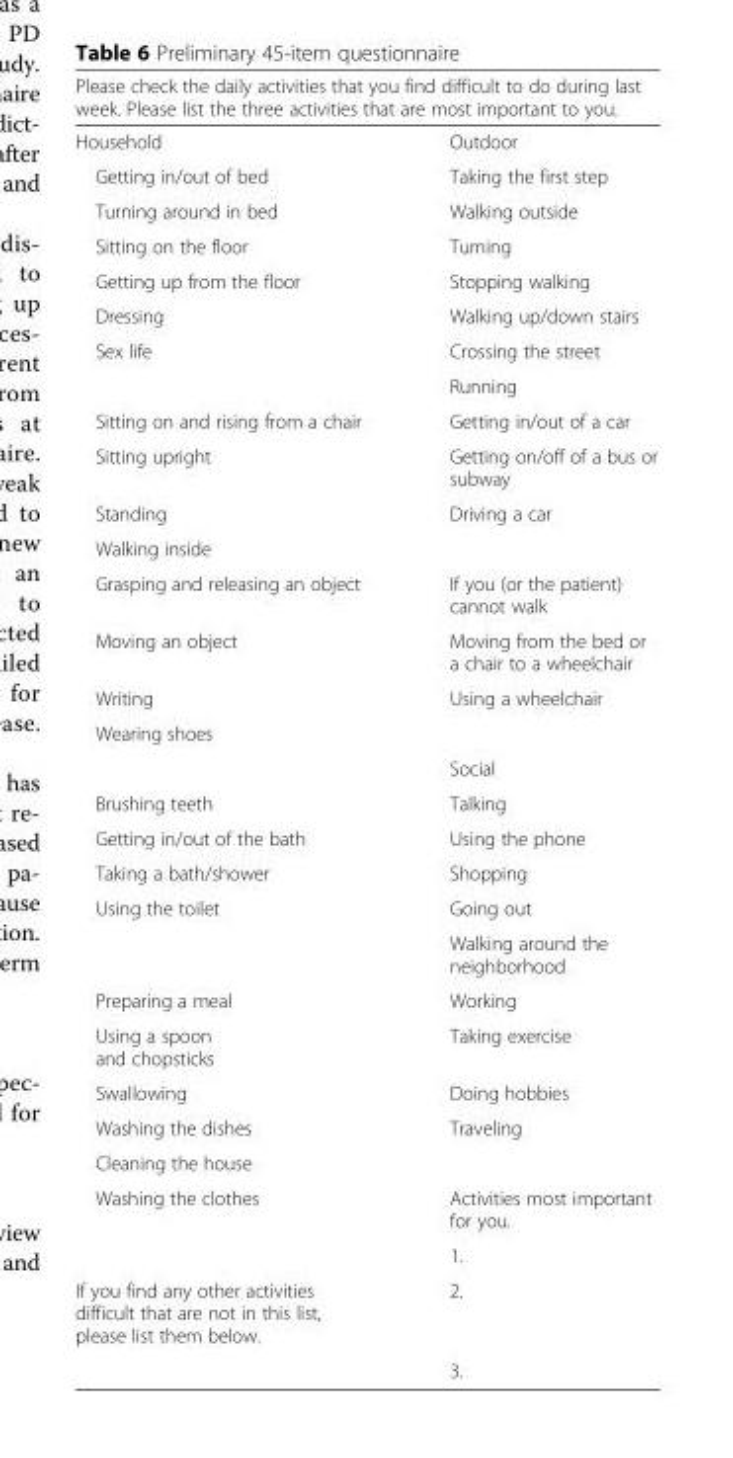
<table><thead><tr><td colspan="2">Please check the daily activities that you find difficult to do during last week. Please list the three activities that are most important to you.</td></tr><tr><td>Household</td><td>Outdoor</td></tr></thead><tbody><tr><td>Getting in/out of bed</td><td>Taking the first step</td></tr><tr><td>Turning around in bed</td><td>Walking outside</td></tr><tr><td>Sitting on the floor</td><td>Turning</td></tr><tr><td>Getting up from the floor</td><td>Stopping walking</td></tr><tr><td>Dressing</td><td>Walking up/down stairs</td></tr><tr><td rowspan="2">Sex life</td><td>Crossing the street</td></tr><tr><td>Running</td></tr><tr><td>Sitting on and rising from a chair</td><td>Getting in/out of a car</td></tr><tr><td>Sitting upright</td><td>Getting on/off of a bus or subway</td></tr><tr><td>Standing</td><td>Driving a car</td></tr><tr><td colspan="2">Walking inside</td></tr><tr><td>Grasping and releasing an object</td><td>If you (or the patient) cannot walk</td></tr><tr><td>Moving an object</td><td>Moving from the bed or a chair to a wheelchair</td></tr><tr><td>Writing</td><td>Using a wheelchair</td></tr><tr><td colspan="2">Wearing shoes</td></tr><tr><td></td><td>Social</td></tr><tr><td>Brushing teeth</td><td>Talking</td></tr><tr><td>Getting in/out of the bath</td><td>Using the phone</td></tr><tr><td>Taking a bath/shower</td><td>Shopping</td></tr><tr><td rowspan="2">Using the toilet</td><td>Going out</td></tr><tr><td>Walking around the neighborhood</td></tr><tr><td>Preparing a meal</td><td>Working</td></tr><tr><td>Using a spoon and chopsticks</td><td>Taking exercise</td></tr><tr><td>Swallowing</td><td>Doing hobbies</td></tr><tr><td>Washing the dishes</td><td>Traveling</td></tr><tr><td colspan="2">Cleaning the house</td></tr><tr><td rowspan="2">Washing the clothes</td><td>Activities most important for you.</td></tr><tr><td>1.</td></tr><tr><td rowspan="2">If you find any other activities difficult that are not in this list, please list them below.</td><td>2.</td></tr><tr><td>3.</td></tr></tbody></table>